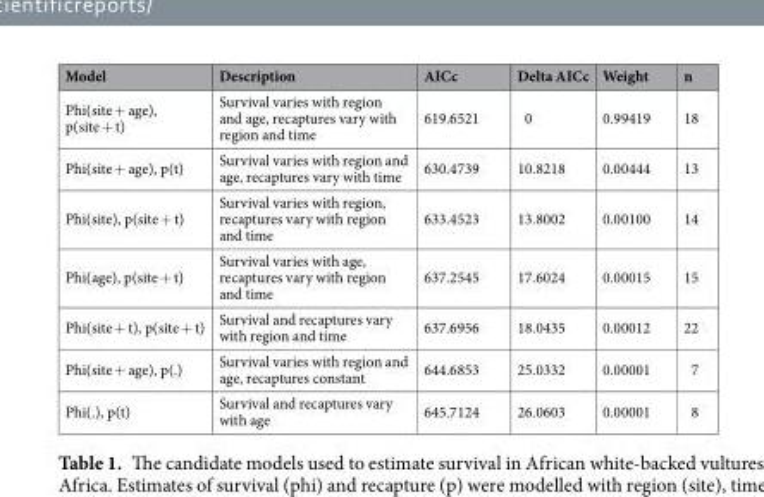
<table><thead><tr><td>Model</td><td>Description</td><td>AICc</td><td>Delta AICc</td><td>Weight</td><td>n</td></tr></thead><tbody><tr><td>Phi(site + age), p(site + t)</td><td>Survival varies with region and age, recaptures vary with region and time</td><td>619.6521</td><td>0</td><td>0.99419</td><td>18</td></tr><tr><td>Phi(site + age), p(t)</td><td>Survival varies with region and age, recaptures vary with time</td><td>630.4739</td><td>10.8218</td><td>0.00444</td><td>13</td></tr><tr><td>Phi(site), p(site + t)</td><td>Survival varies with region, recaptures vary with region and time</td><td>633.4523</td><td>13.8002</td><td>0.00100</td><td>14</td></tr><tr><td>Phi(age), p(site + t)</td><td>Survival varies with age, recaptures vary with region and time</td><td>637.2545</td><td>17.6024</td><td>0.00015</td><td>15</td></tr><tr><td>Phi(site + t), p(site + t)</td><td>Survival and recaptures vary with region and time</td><td>637.6956</td><td>18.0435</td><td>0.00012</td><td>22</td></tr><tr><td>Phi(site + age), p(.)</td><td>Survival varies with region and age, recaptures constant</td><td>644.6853</td><td>25.0332</td><td>0.00001</td><td>7</td></tr><tr><td>Phi(.), p(t)</td><td>Survival and recaptures vary with age</td><td>645.7124</td><td>26.0603</td><td>0.00001</td><td>8</td></tr></tbody></table>